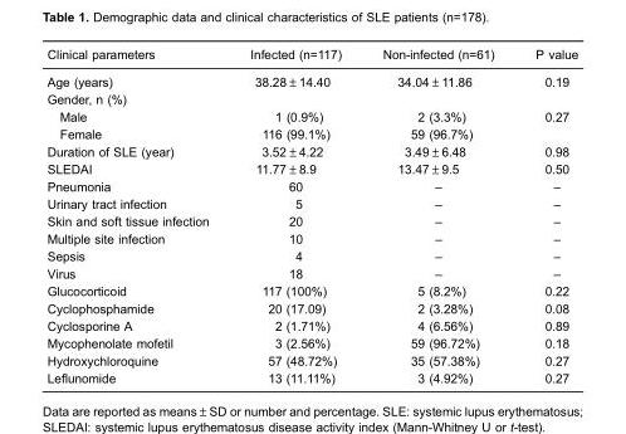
<table><thead><tr><td>Clinical parameters</td><td>Infected (n=117)</td><td>Non-infected (n=61)</td><td>P value</td></tr></thead><tbody><tr><td>Age (years)</td><td>38.28±14.40</td><td>34.04±11.86</td><td>0.19</td></tr><tr><td colspan="4">Gender, n (%)</td></tr><tr><td>Male</td><td>1 (0.9%)</td><td>2 (3.3%)</td><td>0.27</td></tr><tr><td>Female</td><td>116 (99.1%)</td><td>59 (96.7%)</td><td></td></tr><tr><td>Duration of SLE (year)</td><td>3.52±4.22</td><td>3.49±6.48</td><td>0.98</td></tr><tr><td>SLEDAI</td><td>11.77±8.9</td><td>13.47±9.5</td><td>0.50</td></tr><tr><td>Pneumonia</td><td>60</td><td>–</td><td>–</td></tr><tr><td>Urinary tract infection</td><td>5</td><td>–</td><td>–</td></tr><tr><td>Skin and soft tissue infection</td><td>20</td><td>–</td><td>–</td></tr><tr><td>Multiple site infection</td><td>10</td><td>–</td><td>–</td></tr><tr><td>Sepsis</td><td>4</td><td>–</td><td>–</td></tr><tr><td>Virus</td><td>18</td><td>–</td><td>–</td></tr><tr><td>Glucocorticoid</td><td>117 (100%)</td><td>5 (8.2%)</td><td>0.22</td></tr><tr><td>Cyclophosphamide</td><td>20 (17.09)</td><td>2 (3.28%)</td><td>0.08</td></tr><tr><td>Cyclosporine A</td><td>2 (1.71%)</td><td>4 (6.56%)</td><td>0.89</td></tr><tr><td>Mycophenolate mofetil</td><td>3 (2.56%)</td><td>59 (96.72%)</td><td>0.18</td></tr><tr><td>Hydroxychloroquine</td><td>57 (48.72%)</td><td>35 (57.38%)</td><td>0.27</td></tr><tr><td>Leflunomide</td><td>13 (11.11%)</td><td>3 (4.92%)</td><td>0.27</td></tr></tbody></table>